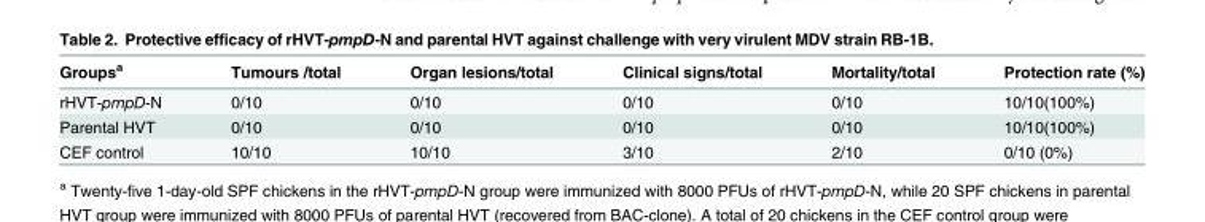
<table><thead><tr><td>Groups<sup>a</sup></td><td>Tumours /total</td><td>Organ lesions/total</td><td>Clinical signs/total</td><td>Mortality/total</td><td>Protection rate (%)</td></tr></thead><tbody><tr><td>rHVT-pmpD-N</td><td>0/10</td><td>0/10</td><td>0/10</td><td>0/10</td><td>10/10(100%)</td></tr><tr><td>Parental HVT</td><td>0/10</td><td>0/10</td><td>0/10</td><td>0/10</td><td>10/10(100%)</td></tr><tr><td>CEF control</td><td>10/10</td><td>10/10</td><td>3/10</td><td>2/10</td><td>0/10 (0%)</td></tr></tbody></table>